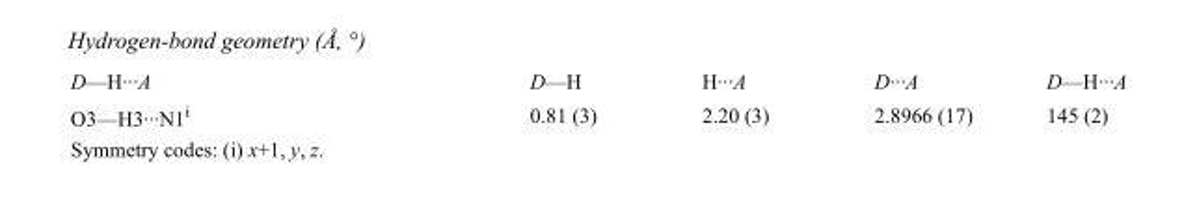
<table><tbody><tr><td>D—H···A</td><td>D—H</td><td>H···A</td><td>D···A</td><td>D—H···A</td></tr><tr><td>O3—H3···N1<sup>i</sup></td><td>0.81 (3)</td><td>2.20 (3)</td><td>2.8966 (17)</td><td>145 (2)</td></tr></tbody></table>